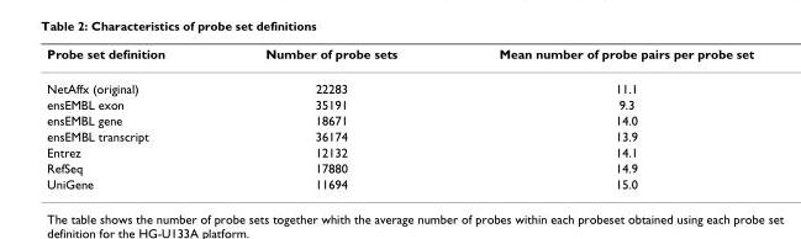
<table><thead><tr><td>Probe set definition</td><td>Number of probe sets</td><td>Mean number of probe pairs per probe set</td></tr></thead><tbody><tr><td>NetAffx (original)</td><td>22283</td><td>11.1</td></tr><tr><td>ensEMBL exon</td><td>35191</td><td>9.3</td></tr><tr><td>ensEMBL gene</td><td>18671</td><td>14.0</td></tr><tr><td>ensEMBL transcript</td><td>36174</td><td>13.9</td></tr><tr><td>Entrez</td><td>12132</td><td>14.1</td></tr><tr><td>RefSeq</td><td>17880</td><td>14.9</td></tr><tr><td>UniGene</td><td>11694</td><td>15.0</td></tr></tbody></table>